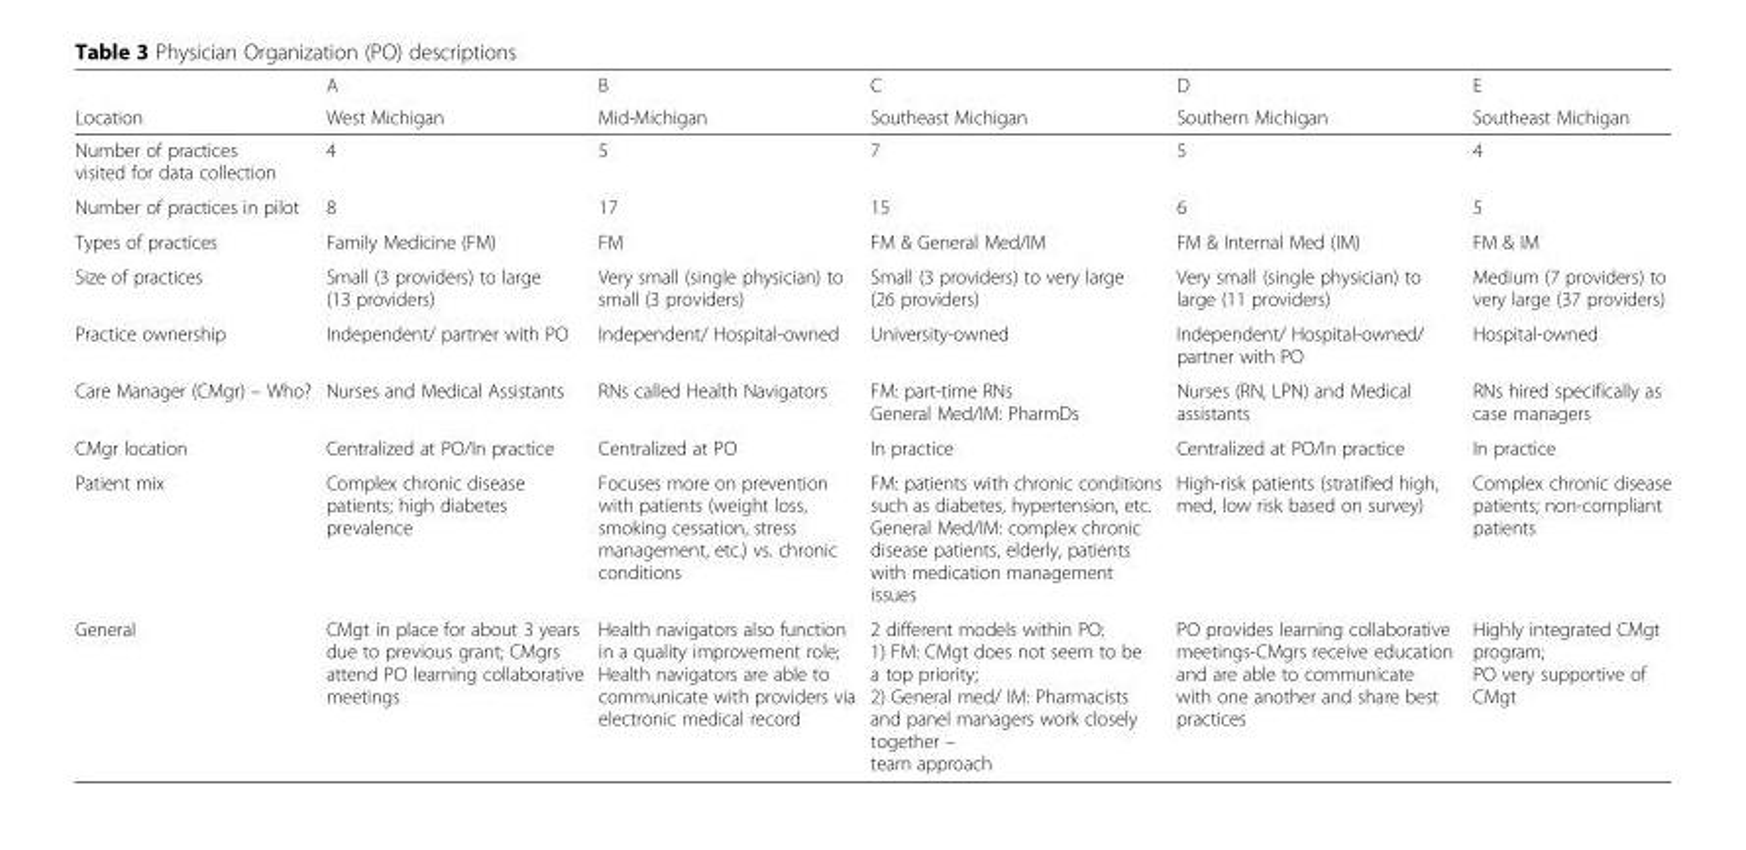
<table><thead><tr><td rowspan="2">Location</td><td rowspan="2">A West Michigan</td><td rowspan="2">B Mid-Michigan</td><td rowspan="2">C Southeast Michigan</td><td rowspan="2">D Southern Michigan</td><td rowspan="2">E Southeast Michigan</td></tr><tr></tr></thead><tbody><tr><td>Number of practices visited for data collection</td><td>4</td><td>5</td><td>7</td><td>5</td><td>4</td></tr><tr><td>Number of practices in pilot</td><td>8</td><td>17</td><td>15</td><td>6</td><td>5</td></tr><tr><td>Types of practices</td><td>Family Medicine (FM)</td><td>FM</td><td>FM &amp; General Med/IM</td><td>FM &amp; Internal Med (IM)</td><td>FM &amp; IM</td></tr><tr><td>Size of practices</td><td>Small (3 providers) to large (13 providers)</td><td>Very small (single physician) to small (3 providers)</td><td>Small (3 providers) to very large (26 providers)</td><td>Very small (single physician) to large (11 providers)</td><td>Medium (7 providers) to very large (37 providers)</td></tr><tr><td>Practice ownership</td><td>Independent/ partner with PO</td><td>Independent/ Hospital-owned</td><td>University-owned</td><td>Independent/ Hospital-owned/ partner with PO</td><td>Hospital-owned</td></tr><tr><td>Care Manager (CMgr) – Who?</td><td>Nurses and Medical Assistants</td><td>RNs called Health Navigators</td><td>FM: part-time RNs General Med/IM: PharmDs</td><td>Nurses (RN, LPN) and Medical assistants</td><td>RNs hired specifically as case managers</td></tr><tr><td>CMgr location</td><td>Centralized at PO/In practice</td><td>Centralized at PO</td><td>In practice</td><td>Centralized at PO/In practice</td><td>In practice</td></tr><tr><td>Patient mix</td><td>Complex chronic disease patients; high diabetes prevalence</td><td>Focuses more on prevention with patients (weight loss, smoking cessation, stress management, etc.) vs. chronic conditions</td><td>FM: patients with chronic conditions such as diabetes, hypertension, etc. General Med/IM: complex chronic disease patients, elderly, patients with medication management issues</td><td>High-risk patients (stratified high, med, low risk based on survey)</td><td>Complex chronic disease patients; non-compliant patients</td></tr><tr><td>General</td><td>CMgt in place for about 3 years due to previous grant; CMgrs attend PO learning collaborative meetings</td><td>Health navigators also function in a quality improvement role; Health navigators are able to communicate with providers via electronic medical record</td><td>2 different models within PO: 1) FM: CMgt does not seem to be a top priority; 2) General med/ IM: Pharmacists and panel managers work closely together – team approach</td><td>PO provides learning collaborative meetings-CMgrs receive education and are able to communicate with one another and share best practices</td><td>Highly integrated CMgt program; PO very supportive of CMgt</td></tr></tbody></table>